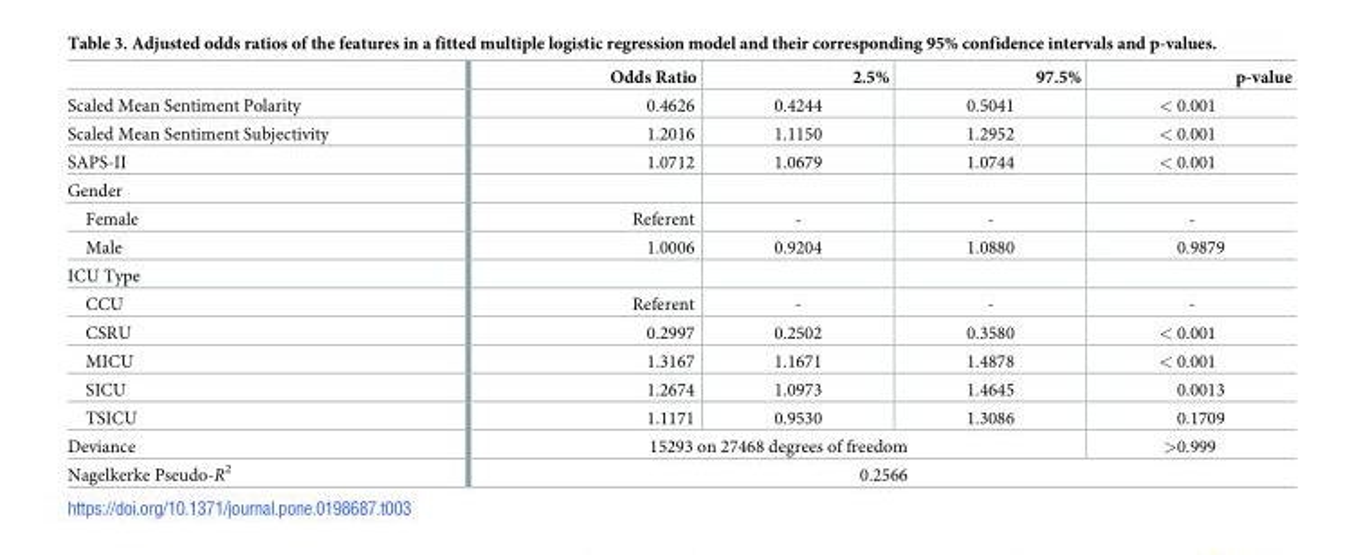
<table><thead><tr><td></td><td>Odds Ratio</td><td>2.5%</td><td>97.5%</td><td>p-value</td></tr></thead><tbody><tr><td>Scaled Mean Sentiment Polarity</td><td>0.4626</td><td>0.4244</td><td>0.5041</td><td>&lt; 0.001</td></tr><tr><td>Scaled Mean Sentiment Subjectivity</td><td>1.2016</td><td>1.1150</td><td>1.2952</td><td>&lt; 0.001</td></tr><tr><td>SAPS-II</td><td>1.0712</td><td>1.0679</td><td>1.0744</td><td>&lt; 0.001</td></tr><tr><td colspan="5">Gender</td></tr><tr><td>Female</td><td>Referent</td><td>-</td><td>-</td><td>-</td></tr><tr><td>Male</td><td>1.0006</td><td>0.9204</td><td>1.0880</td><td>0.9879</td></tr><tr><td colspan="5">ICU Type</td></tr><tr><td>CCU</td><td>Referent</td><td>-</td><td>-</td><td>-</td></tr><tr><td>CSRU</td><td>0.2997</td><td>0.2502</td><td>0.3580</td><td>&lt; 0.001</td></tr><tr><td>MICU</td><td>1.3167</td><td>1.1671</td><td>1.4878</td><td>&lt; 0.001</td></tr><tr><td>SICU</td><td>1.2674</td><td>1.0973</td><td>1.4645</td><td>0.0013</td></tr><tr><td>TSICU</td><td>1.1171</td><td>0.9530</td><td>1.3086</td><td>0.1709</td></tr><tr><td>Deviance</td><td colspan="3">15293 on 27468 degrees of freedom</td><td>&gt;0.999</td></tr><tr><td>Nagelkerke Pseudo-R<sup>2</sup></td><td colspan="4">0.2566</td></tr></tbody></table>